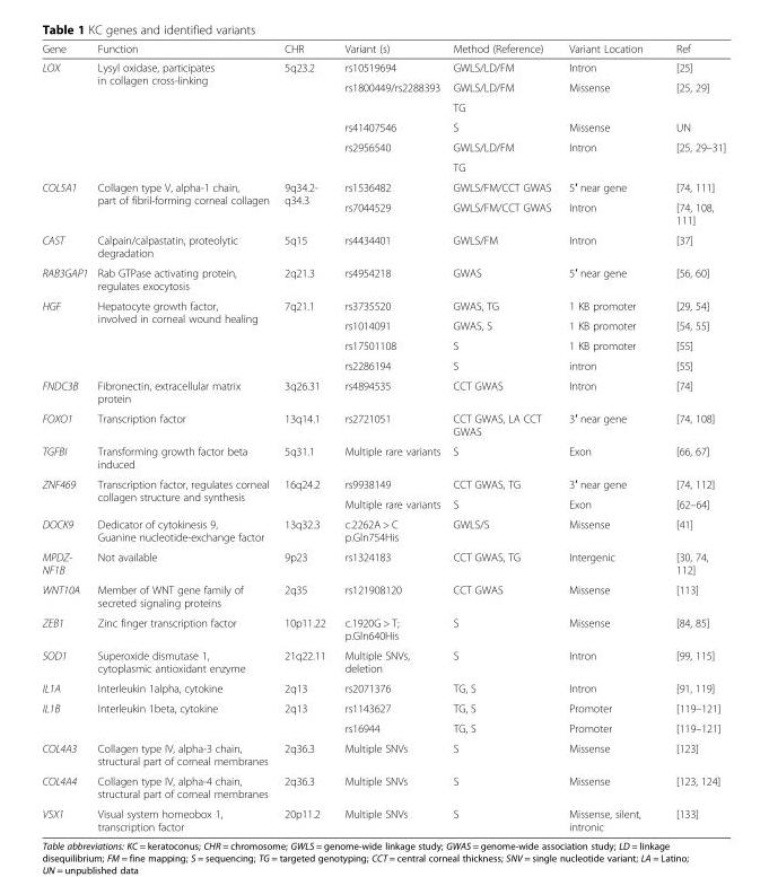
<table><thead><tr><td>Gene</td><td>Function</td><td>CHR</td><td>Variant (s)</td><td>Method (Reference)</td><td>Variant Location</td><td>Ref</td></tr></thead><tbody><tr><td rowspan="6">LOX</td><td rowspan="6">Lysyl oxidase, participates in collagen cross-linking</td><td rowspan="6">5q23.2</td><td>rs10519694</td><td>GWLS/LD/FM</td><td>Intron</td><td>[25]</td></tr><tr><td rowspan="2">rs1800449/rs2288393</td><td>GWLS/LD/FM</td><td rowspan="2">Missense</td><td rowspan="2">[25, 29]</td></tr><tr><td>TG</td></tr><tr><td>rs41407546</td><td>S</td><td>Missense</td><td>UN</td></tr><tr><td rowspan="2">rs2956540</td><td>GWLS/LD/FM</td><td rowspan="2">Intron</td><td rowspan="2">[25, 29–31]</td></tr><tr><td>TG</td></tr><tr><td rowspan="2">COL5A1</td><td rowspan="2">Collagen type V, alpha-1 chain, part of fibril-forming corneal collagen</td><td rowspan="2">9q34.2- q34.3</td><td>rs1536482</td><td>GWLS/FM/CCT GWAS</td><td>5′ near gene</td><td>[74, 111]</td></tr><tr><td>rs7044529</td><td>GWLS/FM/CCT GWAS</td><td>Intron</td><td>[74, 108, 111]</td></tr><tr><td>CAST</td><td>Calpain/calpastatin, proteolytic degradation</td><td>5q15</td><td>rs4434401</td><td>GWLS/FM</td><td>Intron</td><td>[37]</td></tr><tr><td>RAB3GAP1</td><td>Rab GTPase activating protein, regulates exocytosis</td><td>2q21.3</td><td>rs4954218</td><td>GWAS</td><td>5′ near gene</td><td>[56, 60]</td></tr><tr><td rowspan="4">HGF</td><td rowspan="4">Hepatocyte growth factor, involved in corneal wound healing</td><td rowspan="4">7q21.1</td><td>rs3735520</td><td>GWAS, TG</td><td>1 KB promoter</td><td>[29, 54]</td></tr><tr><td>rs1014091</td><td>GWAS, S</td><td>1 KB promoter</td><td>[54, 55]</td></tr><tr><td>rs17501108</td><td>S</td><td>1 KB promoter</td><td>[55]</td></tr><tr><td>rs2286194</td><td>S</td><td>intron</td><td>[55]</td></tr><tr><td>FNDC3B</td><td>Fibronectin, extracellular matrix protein</td><td>3q26.31</td><td>rs4894535</td><td>CCT GWAS</td><td>Intron</td><td>[74]</td></tr><tr><td>FOXO1</td><td>Transcription factor</td><td>13q14.1</td><td>rs2721051</td><td>CCT GWAS, LA CCT GWAS</td><td>3′ near gene</td><td>[74, 108]</td></tr><tr><td>TGFBI</td><td>Transforming growth factor beta induced</td><td>5q31.1</td><td>Multiple rare variants</td><td>S</td><td>Exon</td><td>[66, 67]</td></tr><tr><td rowspan="2">ZNF469</td><td rowspan="2">Transcription factor, regulates corneal collagen structure and synthesis</td><td rowspan="2">16q24.2</td><td>rs9938149</td><td>CCT GWAS, TG</td><td>3′ near gene</td><td>[74, 112]</td></tr><tr><td>Multiple rare variants</td><td>S</td><td>Exon</td><td>[62–64]</td></tr><tr><td>DOCK9</td><td>Dedicator of cytokinesis 9, Guanine nucleotide-exchange factor</td><td>13q32.3</td><td>c.2262A &gt; C p.Gln754His</td><td>GWLS/S</td><td>Missense</td><td>[41]</td></tr><tr><td>MPDZ- NF1B</td><td>Not available</td><td>9p23</td><td>rs1324183</td><td>CCT GWAS, TG</td><td>Intergenic</td><td>[30, 74, 112]</td></tr><tr><td>WNT10A</td><td>Member of WNT gene family of secreted signaling proteins</td><td>2q35</td><td>rs121908120</td><td>CCT GWAS</td><td>Missense</td><td>[113]</td></tr><tr><td>ZEB1</td><td>Zinc finger transcription factor</td><td>10p11.22</td><td>c.1920G &gt; T; p.Gln640His</td><td>S</td><td>Missense</td><td>[84, 85]</td></tr><tr><td>SOD1</td><td>Superoxide dismutase 1, cytoplasmic antioxidant enzyme</td><td>21q22.11</td><td>Multiple SNVs, deletion</td><td>S</td><td>Intron</td><td>[99, 115]</td></tr><tr><td>IL1A</td><td>Interleukin 1alpha, cytokine</td><td>2q13</td><td>rs2071376</td><td>TG, S</td><td>Intron</td><td>[91, 119]</td></tr><tr><td rowspan="2">IL1B</td><td rowspan="2">Interleukin 1beta, cytokine</td><td rowspan="2">2q13</td><td>rs1143627</td><td>TG, S</td><td>Promoter</td><td>[119–121]</td></tr><tr><td>rs16944</td><td>TG, S</td><td>Promoter</td><td>[119–121]</td></tr><tr><td>COL4A3</td><td>Collagen type IV, alpha-3 chain, structural part of corneal membranes</td><td>2q36.3</td><td>Multiple SNVs</td><td>S</td><td>Missense</td><td>[123]</td></tr><tr><td>COL4A4</td><td>Collagen type IV, alpha-4 chain, structural part of corneal membranes</td><td>2q36.3</td><td>Multiple SNVs</td><td>S</td><td>Missense</td><td>[123, 124]</td></tr><tr><td>VSX1</td><td>Visual system homeobox 1, transcription factor</td><td>20p11.2</td><td>Multiple SNVs</td><td>S</td><td>Missense, silent, intronic</td><td>[133]</td></tr></tbody></table>